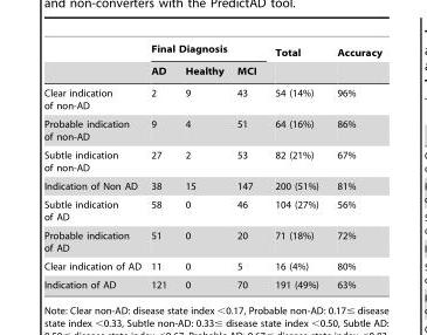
<table><thead><tr><td rowspan="2"></td><td colspan="3">Final Diagnosis</td><td rowspan="2">Total</td><td rowspan="2">Accuracy</td></tr><tr><td>AD</td><td>Healthy</td><td>MCI</td></tr></thead><tbody><tr><td>Clear indication of non-AD</td><td>2</td><td>9</td><td>43</td><td>54 (14%)</td><td>96%</td></tr><tr><td>Probable indication of non-AD</td><td>9</td><td>4</td><td>51</td><td>64 (16%)</td><td>86%</td></tr><tr><td>Subtle indication of non-AD</td><td>27</td><td>2</td><td>53</td><td>82 (21%)</td><td>67%</td></tr><tr><td>Indication of Non AD</td><td>38</td><td>15</td><td>147</td><td>200 (51%)</td><td>81%</td></tr><tr><td>Subtle indication of AD</td><td>58</td><td>0</td><td>46</td><td>104 (27%)</td><td>56%</td></tr><tr><td>Probable indication of AD</td><td>51</td><td>0</td><td>20</td><td>71 (18%)</td><td>72%</td></tr><tr><td>Clear indication of AD</td><td>11</td><td>0</td><td>5</td><td>16 (4%)</td><td>80%</td></tr><tr><td>Indication of AD</td><td>121</td><td>0</td><td>70</td><td>191 (49%)</td><td>63%</td></tr></tbody></table>